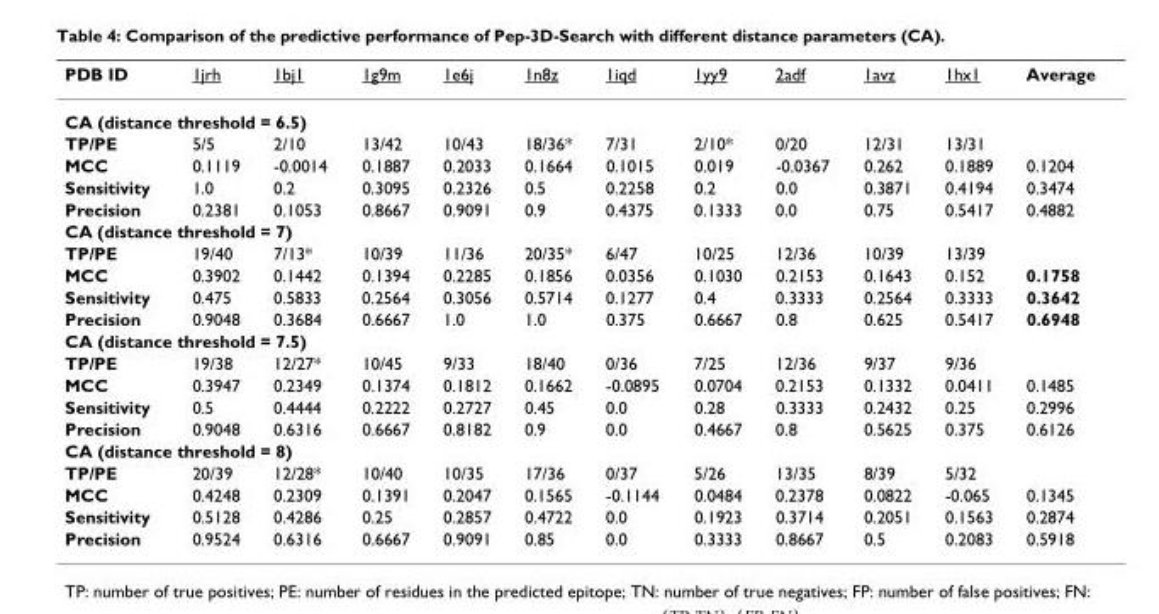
<table><thead><tr><td>PDB ID</td><td>1jrh</td><td>1bj1</td><td>1g9m</td><td>1e6j</td><td>1n8z</td><td>1iqd</td><td>1yy9</td><td>2adf</td><td>1avz</td><td>1hx1</td><td>Average</td></tr></thead><tbody><tr><td colspan="12">CA (distance threshold = 6.5)</td></tr><tr><td>TP/PE</td><td>5/5</td><td>2/10</td><td>13/42</td><td>10/43</td><td>18/36*</td><td>7/31</td><td>2/10*</td><td>0/20</td><td>12/31</td><td>13/31</td><td></td></tr><tr><td>MCC</td><td>0.1119</td><td>-0.0014</td><td>0.1887</td><td>0.2033</td><td>0.1664</td><td>0.1015</td><td>0.019</td><td>-0.0367</td><td>0.262</td><td>0.1889</td><td>0.1204</td></tr><tr><td>Sensitivity</td><td>1.0</td><td>0.2</td><td>0.3095</td><td>0.2326</td><td>0.5</td><td>0.2258</td><td>0.2</td><td>0.0</td><td>0.3871</td><td>0.4194</td><td>0.3474</td></tr><tr><td>Precision</td><td>0.2381</td><td>0.1053</td><td>0.8667</td><td>0.9091</td><td>0.9</td><td>0.4375</td><td>0.1333</td><td>0.0</td><td>0.75</td><td>0.5417</td><td>0.4882</td></tr><tr><td colspan="12">CA (distance threshold = 7)</td></tr><tr><td>TP/PE</td><td>19/40</td><td>7/13*</td><td>10/39</td><td>11/36</td><td>20/35*</td><td>6/47</td><td>10/25</td><td>12/36</td><td>10/39</td><td>13/39</td><td></td></tr><tr><td>MCC</td><td>0.3902</td><td>0.1442</td><td>0.1394</td><td>0.2285</td><td>0.1856</td><td>0.0356</td><td>0.1030</td><td>0.2153</td><td>0.1643</td><td>0.152</td><td>0.1758</td></tr><tr><td>Sensitivity</td><td>0.475</td><td>0.5833</td><td>0.2564</td><td>0.3056</td><td>0.5714</td><td>0.1277</td><td>0.4</td><td>0.3333</td><td>0.2564</td><td>0.3333</td><td>0.3642</td></tr><tr><td>Precision</td><td>0.9048</td><td>0.3684</td><td>0.6667</td><td>1.0</td><td>1.0</td><td>0.375</td><td>0.6667</td><td>0.8</td><td>0.625</td><td>0.5417</td><td>0.6948</td></tr><tr><td colspan="12">CA (distance threshold = 7.5)</td></tr><tr><td>TP/PE</td><td>19/38</td><td>12/27*</td><td>10/45</td><td>9/33</td><td>18/40</td><td>0/36</td><td>7/25</td><td>12/36</td><td>9/37</td><td>9/36</td><td></td></tr><tr><td>MCC</td><td>0.3947</td><td>0.2349</td><td>0.1374</td><td>0.1812</td><td>0.1662</td><td>-0.0895</td><td>0.0704</td><td>0.2153</td><td>0.1332</td><td>0.0411</td><td>0.1485</td></tr><tr><td>Sensitivity</td><td>0.5</td><td>0.4444</td><td>0.2222</td><td>0.2727</td><td>0.45</td><td>0.0</td><td>0.28</td><td>0.3333</td><td>0.2432</td><td>0.25</td><td>0.2996</td></tr><tr><td>Precision</td><td>0.9048</td><td>0.6316</td><td>0.6667</td><td>0.8182</td><td>0.9</td><td>0.0</td><td>0.4667</td><td>0.8</td><td>0.5625</td><td>0.375</td><td>0.6126</td></tr><tr><td colspan="12">CA (distance threshold = 8)</td></tr><tr><td>TP/PE</td><td>20/39</td><td>12/28*</td><td>10/40</td><td>10/35</td><td>17/36</td><td>0/37</td><td>5/26</td><td>13/35</td><td>8/39</td><td>5/32</td><td></td></tr><tr><td>MCC</td><td>0.4248</td><td>0.2309</td><td>0.1391</td><td>0.2047</td><td>0.1565</td><td>-0.1144</td><td>0.0484</td><td>0.2378</td><td>0.0822</td><td>-0.065</td><td>0.1345</td></tr><tr><td>Sensitivity</td><td>0.5128</td><td>0.4286</td><td>0.25</td><td>0.2857</td><td>0.4722</td><td>0.0</td><td>0.1923</td><td>0.3714</td><td>0.2051</td><td>0.1563</td><td>0.2874</td></tr><tr><td>Precision</td><td>0.9524</td><td>0.6316</td><td>0.6667</td><td>0.9091</td><td>0.85</td><td>0.0</td><td>0.3333</td><td>0.8667</td><td>0.5</td><td>0.2083</td><td>0.5918</td></tr></tbody></table>